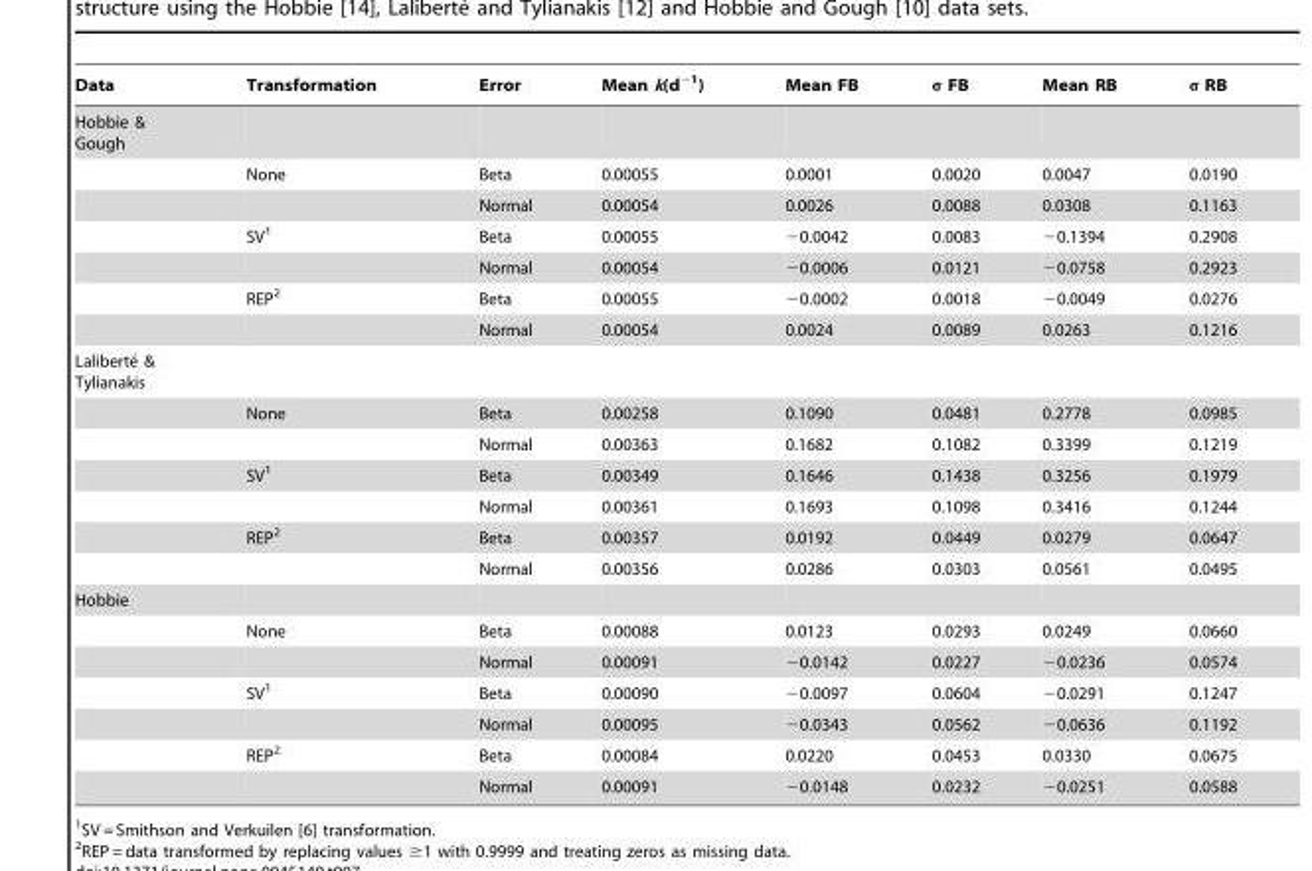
<table><thead><tr><td>Data</td><td>Transformation</td><td>Error</td><td>Mean k(d<sup>−1</sup>)</td><td>Mean FB</td><td>σ FB</td><td>Mean RB</td><td>σ RB</td></tr></thead><tbody><tr><td colspan="8">Hobbie &amp; Gough</td></tr><tr><td></td><td>None</td><td>Beta</td><td>0.00055</td><td>0.0001</td><td>0.0020</td><td>0.0047</td><td>0.0190</td></tr><tr><td></td><td></td><td>Normal</td><td>0.00054</td><td>0.0026</td><td>0.0088</td><td>0.0308</td><td>0.1163</td></tr><tr><td></td><td>SV<sup>1</sup></td><td>Beta</td><td>0.00055</td><td>−0.0042</td><td>0.0083</td><td>−0.1394</td><td>0.2908</td></tr><tr><td></td><td></td><td>Normal</td><td>0.00054</td><td>−0.0006</td><td>0.0121</td><td>−0.0758</td><td>0.2923</td></tr><tr><td></td><td>REP<sup>2</sup></td><td>Beta</td><td>0.00055</td><td>−0.0002</td><td>0.0018</td><td>−0.0049</td><td>0.0276</td></tr><tr><td></td><td></td><td>Normal</td><td>0.00054</td><td>0.0024</td><td>0.0089</td><td>0.0263</td><td>0.1216</td></tr><tr><td colspan="8">Laliberte´ &amp; Tylianakis</td></tr><tr><td></td><td>None</td><td>Beta</td><td>0.00258</td><td>0.1090</td><td>0.0481</td><td>0.2778</td><td>0.0985</td></tr><tr><td></td><td></td><td>Normal</td><td>0.00363</td><td>0.1682</td><td>0.1082</td><td>0.3399</td><td>0.1219</td></tr><tr><td></td><td>SV<sup>1</sup></td><td>Beta</td><td>0.00349</td><td>0.1646</td><td>0.1438</td><td>0.3256</td><td>0.1979</td></tr><tr><td></td><td></td><td>Normal</td><td>0.00361</td><td>0.1693</td><td>0.1098</td><td>0.3416</td><td>0.1244</td></tr><tr><td></td><td>REP<sup>2</sup></td><td>Beta</td><td>0.00357</td><td>0.0192</td><td>0.0449</td><td>0.0279</td><td>0.0647</td></tr><tr><td></td><td></td><td>Normal</td><td>0.00356</td><td>0.0286</td><td>0.0303</td><td>0.0561</td><td>0.0495</td></tr><tr><td colspan="8">Hobbie</td></tr><tr><td></td><td>None</td><td>Beta</td><td>0.00088</td><td>0.0123</td><td>0.0293</td><td>0.0249</td><td>0.0660</td></tr><tr><td></td><td></td><td>Normal</td><td>0.00091</td><td>−0.0142</td><td>0.0227</td><td>−0.0236</td><td>0.0574</td></tr><tr><td></td><td>SV<sup>1</sup></td><td>Beta</td><td>0.00090</td><td>−0.0097</td><td>0.0604</td><td>−0.0291</td><td>0.1247</td></tr><tr><td></td><td></td><td>Normal</td><td>0.00095</td><td>−0.0343</td><td>0.0562</td><td>−0.0636</td><td>0.1192</td></tr><tr><td></td><td>REP<sup>2</sup></td><td>Beta</td><td>0.00084</td><td>0.0220</td><td>0.0453</td><td>0.0330</td><td>0.0675</td></tr><tr><td></td><td></td><td>Normal</td><td>0.00091</td><td>−0.0148</td><td>0.0232</td><td>−0.0251</td><td>0.0588</td></tr></tbody></table>